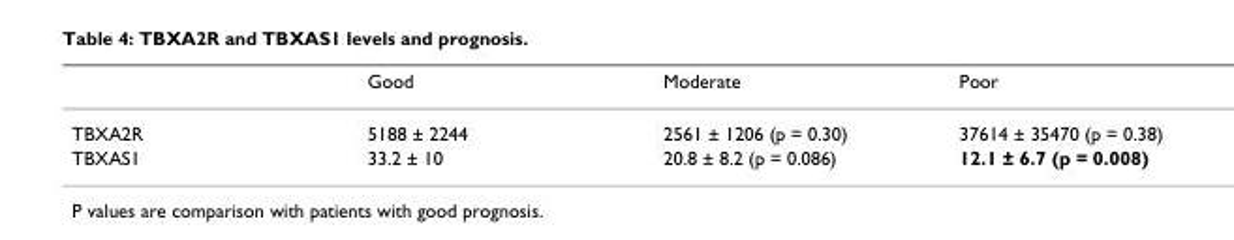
<table><thead><tr><td></td><td>Good</td><td>Moderate</td><td>Poor</td></tr></thead><tbody><tr><td>TBXA2R</td><td>5188 ± 2244</td><td>2561 ± 1206 (p = 0.30)</td><td>37614 ± 35470 (p = 0.38)</td></tr><tr><td>TBXAS1</td><td>33.2 ± 10</td><td>20.8 ± 8.2 (p = 0.086)</td><td>12.1 ± 6.7 (p = 0.008)</td></tr></tbody></table>